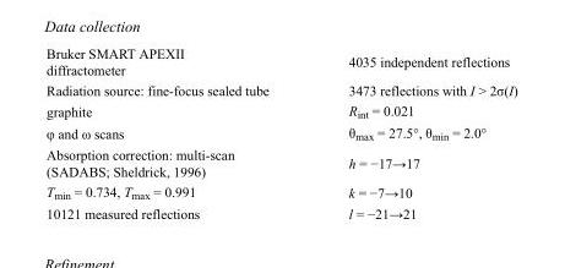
<table><tbody><tr><td>Bruker SMART APEXII diffractometer</td><td>4035 independent reflections</td></tr><tr><td>Radiation source: fine-focus sealed tube</td><td>3473 reflections with I &gt; 2σ(I)</td></tr><tr><td>graphite</td><td>R<sub>int</sub> = 0.021</td></tr><tr><td>φ and ω scans</td><td>θ<sub>max</sub> = 27.5°, θ<sub>min</sub> = 2.0°</td></tr><tr><td>Absorption correction: multi-scan (SADABS; Sheldrick, 1996)</td><td>h = −17→17</td></tr><tr><td>T<sub>min</sub> = 0.734, T<sub>max</sub> = 0.991</td><td>k = −7→10</td></tr><tr><td>10121 measured reflections</td><td>l = −21→21</td></tr></tbody></table>